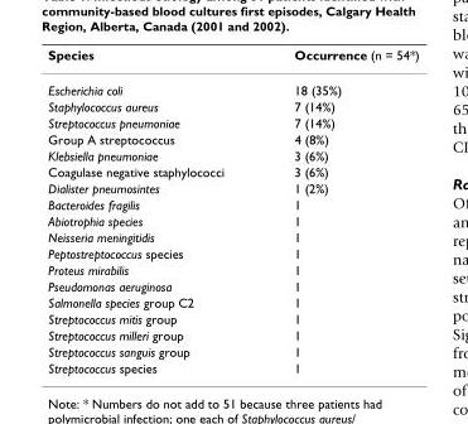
<table><thead><tr><td>Species</td><td>Occurrence (n = 54*)</td></tr></thead><tbody><tr><td>Escherichia coli</td><td>18 (35%)</td></tr><tr><td>Staphylococcus aureus</td><td>7 (14%)</td></tr><tr><td>Streptococcus pneumoniae</td><td>7 (14%)</td></tr><tr><td>Group A streptococcus</td><td>4 (8%)</td></tr><tr><td>Klebsiella pneumoniae</td><td>3 (6%)</td></tr><tr><td>Coagulase negative staphylococci</td><td>3 (6%)</td></tr><tr><td>Dialister pneumosintes</td><td>1 (2%)</td></tr><tr><td>Bacteroides fragilis</td><td>1</td></tr><tr><td>Abiotrophia species</td><td>1</td></tr><tr><td>Neisseria meningitidis</td><td>1</td></tr><tr><td>Peptostreptococcus species</td><td>1</td></tr><tr><td>Proteus mirabilis</td><td>1</td></tr><tr><td>Pseudomonas aeruginosa</td><td>1</td></tr><tr><td>Salmonella species group C2</td><td>1</td></tr><tr><td>Streptococcus mitis group</td><td>1</td></tr><tr><td>Streptococcus milleri group</td><td>1</td></tr><tr><td>Streptococcus sanguis group</td><td>1</td></tr><tr><td>Streptococcus species</td><td>1</td></tr></tbody></table>